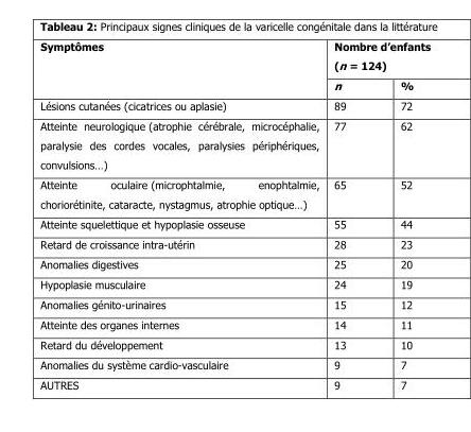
<table><thead><tr><td rowspan="2">Symptômes</td><td colspan="2">Nombre d’enfants (n = 124)</td></tr><tr><td>n</td><td>%</td></tr></thead><tbody><tr><td>Lésions cutanées (cicatrices ou aplasie)</td><td>89</td><td>72</td></tr><tr><td>Atteinte neurologique (atrophie cérébrale, microcéphalie, paralysie des cordes vocales, paralysies périphériques, convulsions…)</td><td>77</td><td>62</td></tr><tr><td>Atteinte oculaire (microphtalmie, enophtalmie, choriorétinite, cataracte, nystagmus, atrophie optique…)</td><td>65</td><td>52</td></tr><tr><td>Atteinte squelettique et hypoplasie osseuse</td><td>55</td><td>44</td></tr><tr><td>Retard de croissance intra-utérin</td><td>28</td><td>23</td></tr><tr><td>Anomalies digestives</td><td>25</td><td>20</td></tr><tr><td>Hypoplasie musculaire</td><td>24</td><td>19</td></tr><tr><td>Anomalies génito-urinaires</td><td>15</td><td>12</td></tr><tr><td>Atteinte des organes internes</td><td>14</td><td>11</td></tr><tr><td>Retard du développement</td><td>13</td><td>10</td></tr><tr><td>Anomalies du système cardio-vasculaire</td><td>9</td><td>7</td></tr><tr><td>AUTRES</td><td>9</td><td>7</td></tr></tbody></table>